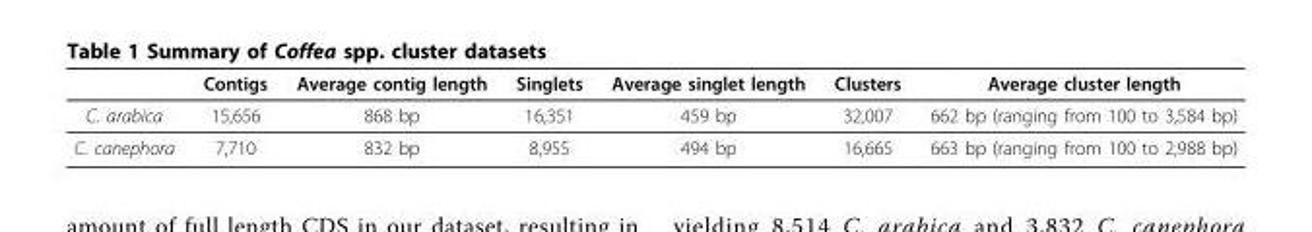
<table><thead><tr><td></td><td>Contigs</td><td>Average contig length</td><td>Singlets</td><td>Average singlet length</td><td>Clusters</td><td>Average cluster length</td></tr></thead><tbody><tr><td>C. arabica</td><td>15,656</td><td>868 bp</td><td>16,351</td><td>459 bp</td><td>32,007</td><td>662 bp (ranging from 100 to 3,584 bp)</td></tr><tr><td>C. canephora</td><td>7,710</td><td>832 bp</td><td>8,955</td><td>494 bp</td><td>16,665</td><td>663 bp (ranging from 100 to 2,988 bp)</td></tr></tbody></table>